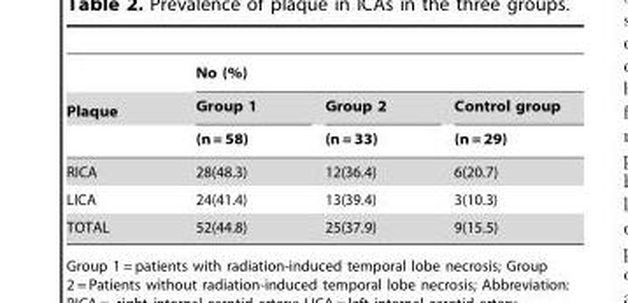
<table><thead><tr><td rowspan="3">Plaque</td><td colspan="3">No (%)</td></tr><tr><td rowspan="2">Group 1 (n = 58)</td><td rowspan="2">Group 2 (n = 33)</td><td rowspan="2">Control group (n = 29)</td></tr><tr></tr></thead><tbody><tr><td>RICA</td><td>28(48.3)</td><td>12(36.4)</td><td>6(20.7)</td></tr><tr><td>LICA</td><td>24(41.4)</td><td>13(39.4)</td><td>3(10.3)</td></tr><tr><td>TOTAL</td><td>52(44.8)</td><td>25(37.9)</td><td>9(15.5)</td></tr></tbody></table>